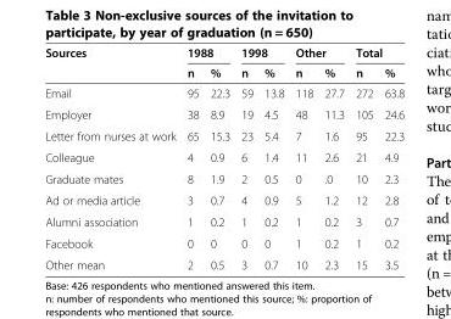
<table><thead><tr><td rowspan="2">Sources</td><td colspan="2">1988</td><td colspan="2">1998</td><td colspan="2">Other</td><td colspan="2">Total</td></tr><tr><td>n</td><td>%</td><td>n</td><td>%</td><td>n</td><td>%</td><td>n</td><td>%</td></tr></thead><tbody><tr><td>Email</td><td>95</td><td>22.3</td><td>59</td><td>13.8</td><td>118</td><td>27.7</td><td>272</td><td>63.8</td></tr><tr><td>Employer</td><td>38</td><td>8.9</td><td>19</td><td>4.5</td><td>48</td><td>11.3</td><td>105</td><td>24.6</td></tr><tr><td>Letter from nurses at work</td><td>65</td><td>15.3</td><td>23</td><td>5.4</td><td>7</td><td>1.6</td><td>95</td><td>22.3</td></tr><tr><td>Colleague</td><td>4</td><td>0.9</td><td>6</td><td>1.4</td><td>11</td><td>2.6</td><td>21</td><td>4.9</td></tr><tr><td>Graduate mates</td><td>8</td><td>1.9</td><td>2</td><td>0.5</td><td>0</td><td>.0</td><td>10</td><td>2.3</td></tr><tr><td>Ad or media article</td><td>3</td><td>0.7</td><td>4</td><td>0.9</td><td>5</td><td>1.2</td><td>12</td><td>2.8</td></tr><tr><td>Alumni association</td><td>1</td><td>0.2</td><td>1</td><td>0.2</td><td>1</td><td>0.2</td><td>3</td><td>0.7</td></tr><tr><td>Facebook</td><td>0</td><td>0</td><td>0</td><td>0</td><td>1</td><td>0.2</td><td>1</td><td>0.2</td></tr><tr><td>Other mean</td><td>2</td><td>0.5</td><td>3</td><td>0.7</td><td>10</td><td>2.3</td><td>15</td><td>3.5</td></tr></tbody></table>